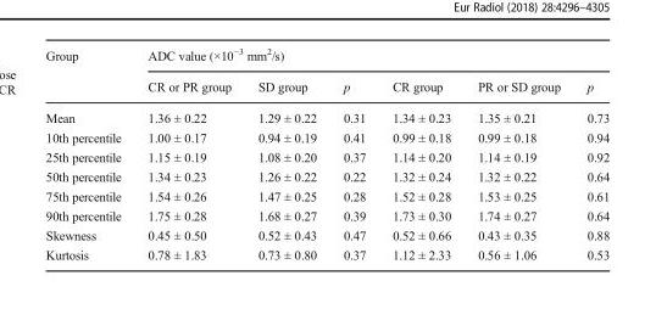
<table><thead><tr><td rowspan="2">Group</td><td colspan="6">ADC value (×10<sup>−3</sup> mm<sup>2</sup>/s)</td></tr><tr><td>CR or PR group</td><td>SD group</td><td>p</td><td>CR group</td><td>PR or SD group</td><td>p</td></tr></thead><tbody><tr><td>Mean</td><td>1.36 ± 0.22</td><td>1.29 ± 0.22</td><td>0.31</td><td>1.34 ± 0.23</td><td>1.35 ± 0.21</td><td>0.73</td></tr><tr><td>10th percentile</td><td>1.00 ± 0.17</td><td>0.94 ± 0.19</td><td>0.41</td><td>0.99 ± 0.18</td><td>0.99 ± 0.18</td><td>0.94</td></tr><tr><td>25th percentile</td><td>1.15 ± 0.19</td><td>1.08 ± 0.20</td><td>0.37</td><td>1.14 ± 0.20</td><td>1.14 ± 0.19</td><td>0.92</td></tr><tr><td>50th percentile</td><td>1.34 ± 0.23</td><td>1.26 ± 0.22</td><td>0.22</td><td>1.32 ± 0.24</td><td>1.32 ± 0.22</td><td>0.64</td></tr><tr><td>75th percentile</td><td>1.54 ± 0.26</td><td>1.47 ± 0.25</td><td>0.28</td><td>1.52 ± 0.28</td><td>1.53 ± 0.25</td><td>0.61</td></tr><tr><td>90th percentile</td><td>1.75 ± 0.28</td><td>1.68 ± 0.27</td><td>0.39</td><td>1.73 ± 0.30</td><td>1.74 ± 0.27</td><td>0.64</td></tr><tr><td>Skewness</td><td>0.45 ± 0.50</td><td>0.52 ± 0.43</td><td>0.47</td><td>0.52 ± 0.66</td><td>0.43 ± 0.35</td><td>0.88</td></tr><tr><td>Kurtosis</td><td>0.78 ± 1.83</td><td>0.73 ± 0.80</td><td>0.37</td><td>1.12 ± 2.33</td><td>0.56 ± 1.06</td><td>0.53</td></tr></tbody></table>